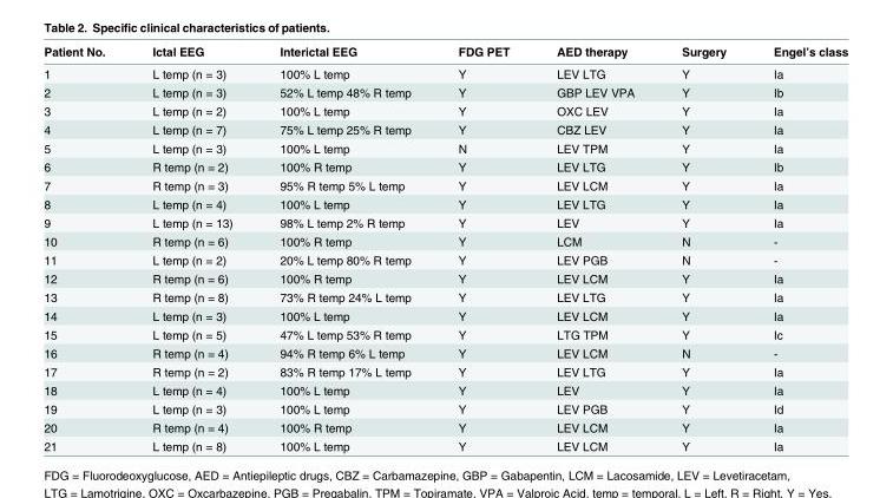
<table><thead><tr><td>Patient No.</td><td>Ictal EEG</td><td>Interictal EEG</td><td>FDG PET</td><td>AED therapy</td><td>Surgery</td><td>Engel’s class</td></tr></thead><tbody><tr><td>1</td><td>L temp (n = 3)</td><td>100% L temp</td><td>Y</td><td>LEV LTG</td><td>Y</td><td>Ia</td></tr><tr><td>2</td><td>L temp (n = 3)</td><td>52% L temp 48% R temp</td><td>Y</td><td>GBP LEV VPA</td><td>Y</td><td>Ib</td></tr><tr><td>3</td><td>L temp (n = 2)</td><td>100% L temp</td><td>Y</td><td>OXC LEV</td><td>Y</td><td>Ia</td></tr><tr><td>4</td><td>L temp (n = 7)</td><td>75% L temp 25% R temp</td><td>Y</td><td>CBZ LEV</td><td>Y</td><td>Ia</td></tr><tr><td>5</td><td>L temp (n = 3)</td><td>100% L temp</td><td>N</td><td>LEV TPM</td><td>Y</td><td>Ia</td></tr><tr><td>6</td><td>R temp (n = 2)</td><td>100% R temp</td><td>Y</td><td>LEV LTG</td><td>Y</td><td>Ib</td></tr><tr><td>7</td><td>R temp (n = 3)</td><td>95% R temp 5% L temp</td><td>Y</td><td>LEV LCM</td><td>Y</td><td>Ia</td></tr><tr><td>8</td><td>L temp (n = 4)</td><td>100% L temp</td><td>Y</td><td>LEV LTG</td><td>Y</td><td>Ia</td></tr><tr><td>9</td><td>L temp (n = 13)</td><td>98% L temp 2% R temp</td><td>Y</td><td>LEV</td><td>Y</td><td>Ia</td></tr><tr><td>10</td><td>R temp (n = 6)</td><td>100% R temp</td><td>Y</td><td>LCM</td><td>N</td><td>-</td></tr><tr><td>11</td><td>L temp (n = 2)</td><td>20% L temp 80% R temp</td><td>Y</td><td>LEV PGB</td><td>N</td><td>-</td></tr><tr><td>12</td><td>R temp (n = 6)</td><td>100% R temp</td><td>Y</td><td>LEV LCM</td><td>Y</td><td>Ia</td></tr><tr><td>13</td><td>R temp (n = 8)</td><td>73% R temp 24% L temp</td><td>Y</td><td>LEV LTG</td><td>Y</td><td>Ia</td></tr><tr><td>14</td><td>L temp (n = 3)</td><td>100% L temp</td><td>Y</td><td>LEV LCM</td><td>Y</td><td>Ia</td></tr><tr><td>15</td><td>L temp (n = 5)</td><td>47% L temp 53% R temp</td><td>Y</td><td>LTG TPM</td><td>Y</td><td>Ic</td></tr><tr><td>16</td><td>R temp (n = 4)</td><td>94% R temp 6% L temp</td><td>Y</td><td>LEV LCM</td><td>N</td><td>-</td></tr><tr><td>17</td><td>R temp (n = 2)</td><td>83% R temp 17% L temp</td><td>Y</td><td>LEV LTG</td><td>Y</td><td>Ia</td></tr><tr><td>18</td><td>L temp (n = 4)</td><td>100% L temp</td><td>Y</td><td>LEV</td><td>Y</td><td>Ia</td></tr><tr><td>19</td><td>L temp (n = 3)</td><td>100% L temp</td><td>Y</td><td>LEV PGB</td><td>Y</td><td>Id</td></tr><tr><td>20</td><td>R temp (n = 4)</td><td>100% R temp</td><td>Y</td><td>LEV LCM</td><td>Y</td><td>Ia</td></tr><tr><td>21</td><td>L temp (n = 8)</td><td>100% L temp</td><td>Y</td><td>LEV LCM</td><td>Y</td><td>Ia</td></tr></tbody></table>